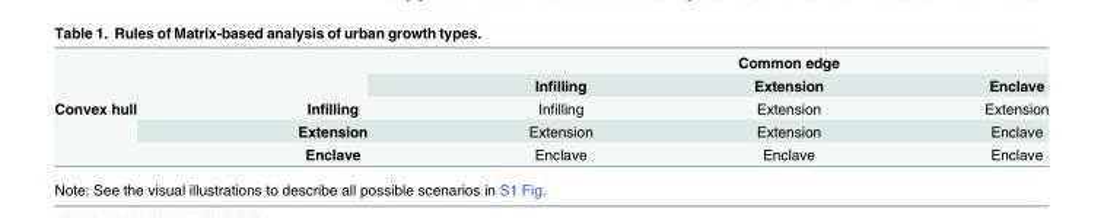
<table><thead><tr><td rowspan="2"></td><td rowspan="2"></td><td colspan="3">Common edge</td></tr><tr><td>Infilling</td><td>Extension</td><td>Enclave</td></tr></thead><tbody><tr><td rowspan="3">Convex hull</td><td>Infilling</td><td>Infilling</td><td>Extension</td><td>Extension</td></tr><tr><td>Extension</td><td>Extension</td><td>Extension</td><td>Enclave</td></tr><tr><td>Enclave</td><td>Enclave</td><td>Enclave</td><td>Enclave</td></tr></tbody></table>